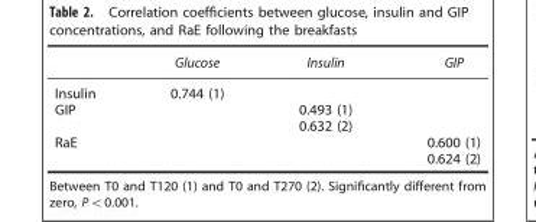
<table><thead><tr><td></td><td>Glucose</td><td>Insulin</td><td>GIP</td></tr></thead><tbody><tr><td>Insulin</td><td>0.744 (1)</td><td></td><td></td></tr><tr><td rowspan="2">GIP</td><td></td><td>0.493 (1)</td><td></td></tr><tr><td></td><td>0.632 (2)</td><td></td></tr><tr><td rowspan="2">RaE</td><td></td><td></td><td>0.600 (1)</td></tr><tr><td></td><td></td><td>0.624 (2)</td></tr></tbody></table>